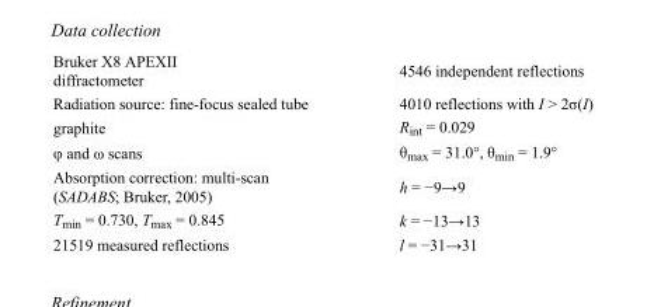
<table><tbody><tr><td>Bruker X8 APEXII diffractometer</td><td>4546 independent reflections</td></tr><tr><td>Radiation source: fine-focus sealed tube</td><td>4010 reflections with I &gt; 2σ(I)</td></tr><tr><td>graphite</td><td>R<sub>int</sub> = 0.029</td></tr><tr><td>φ and ω scans</td><td>θ<sub>max</sub> = 31.0°, θ<sub>min</sub> = 1.9°</td></tr><tr><td>Absorption correction: multi-scan (SADABS; Bruker, 2005)</td><td>h = −9→9</td></tr><tr><td>T<sub>min</sub> = 0.730, T<sub>max</sub> = 0.845</td><td>k = −13→13</td></tr><tr><td>21519 measured reflections</td><td>l = −31→31</td></tr></tbody></table>